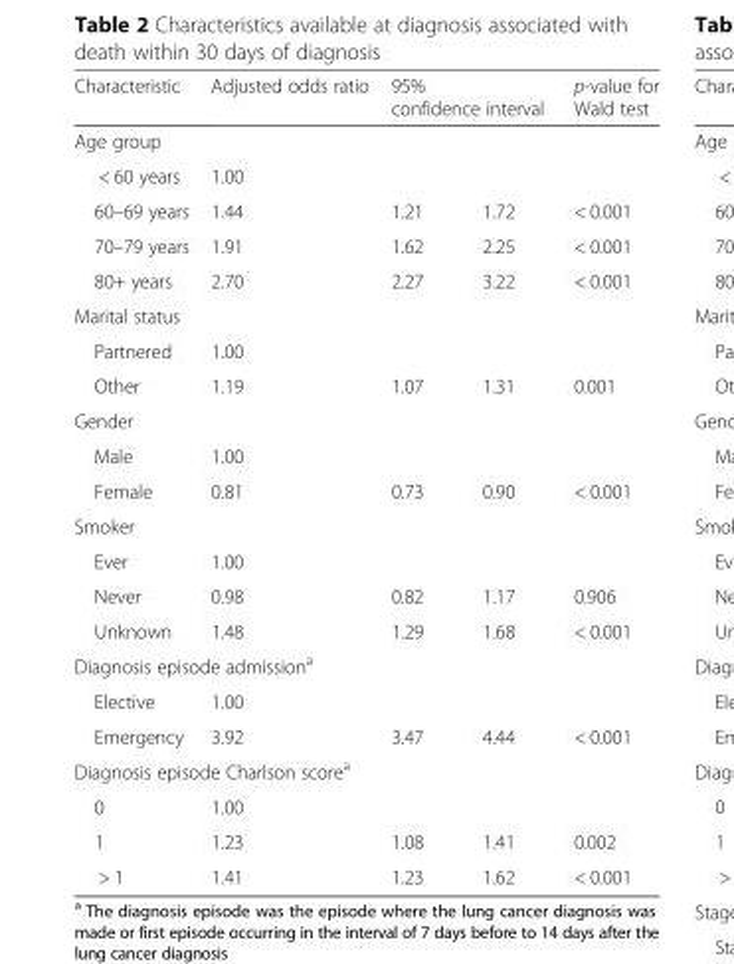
<table><thead><tr><td>Characteristic</td><td>Adjusted odds ratio</td><td colspan="2">95% confidence interval</td><td>p-value for Wald test</td></tr><tr><td colspan="5">Age group</td></tr><tr><td>&lt; 60 years</td><td>1.00</td><td></td><td></td><td></td></tr></thead><tbody><tr><td>60–69 years</td><td>1.44</td><td>1.21</td><td>1.72</td><td>&lt; 0.001</td></tr><tr><td>70–79 years</td><td>1.91</td><td>1.62</td><td>2.25</td><td>&lt; 0.001</td></tr><tr><td>80+ years</td><td>2.70</td><td>2.27</td><td>3.22</td><td>&lt; 0.001</td></tr><tr><td colspan="5">Marital status</td></tr><tr><td>Partnered</td><td>1.00</td><td></td><td></td><td></td></tr><tr><td>Other</td><td>1.19</td><td>1.07</td><td>1.31</td><td>0.001</td></tr><tr><td colspan="5">Gender</td></tr><tr><td>Male</td><td>1.00</td><td></td><td></td><td></td></tr><tr><td>Female</td><td>0.81</td><td>0.73</td><td>0.90</td><td>&lt; 0.001</td></tr><tr><td colspan="5">Smoker</td></tr><tr><td>Ever</td><td>1.00</td><td></td><td></td><td></td></tr><tr><td>Never</td><td>0.98</td><td>0.82</td><td>1.17</td><td>0.906</td></tr><tr><td>Unknown</td><td>1.48</td><td>1.29</td><td>1.68</td><td>&lt; 0.001</td></tr><tr><td colspan="5">Diagnosis episode admission<sup>a</sup></td></tr><tr><td>Elective</td><td>1.00</td><td></td><td></td><td></td></tr><tr><td>Emergency</td><td>3.92</td><td>3.47</td><td>4.44</td><td>&lt; 0.001</td></tr><tr><td colspan="5">Diagnosis episode Charlson score<sup>a</sup></td></tr><tr><td>0</td><td>1.00</td><td></td><td></td><td></td></tr><tr><td>1</td><td>1.23</td><td>1.08</td><td>1.41</td><td>0.002</td></tr><tr><td>&gt; 1</td><td>1.41</td><td>1.23</td><td>1.62</td><td>&lt; 0.001</td></tr></tbody></table>